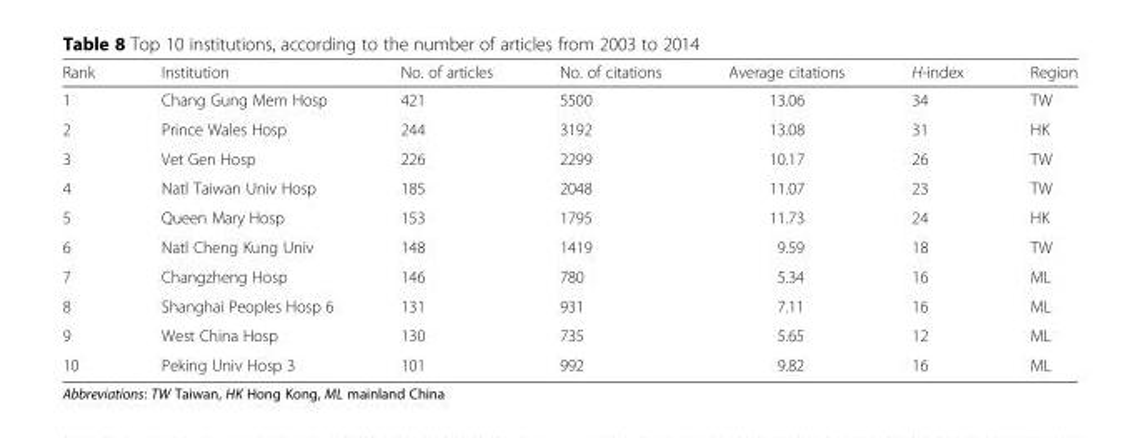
<table><thead><tr><td>Rank</td><td>Institution</td><td>No. of articles</td><td>No. of citations</td><td>Average citations</td><td>H-index</td><td>Region</td></tr></thead><tbody><tr><td>1</td><td>Chang Gung Mem Hosp</td><td>421</td><td>5500</td><td>13.06</td><td>34</td><td>TW</td></tr><tr><td>2</td><td>Prince Wales Hosp</td><td>244</td><td>3192</td><td>13.08</td><td>31</td><td>HK</td></tr><tr><td>3</td><td>Vet Gen Hosp</td><td>226</td><td>2299</td><td>10.17</td><td>26</td><td>TW</td></tr><tr><td>4</td><td>Natl Taiwan Univ Hosp</td><td>185</td><td>2048</td><td>11.07</td><td>23</td><td>TW</td></tr><tr><td>5</td><td>Queen Mary Hosp</td><td>153</td><td>1795</td><td>11.73</td><td>24</td><td>HK</td></tr><tr><td>6</td><td>Natl Cheng Kung Univ</td><td>148</td><td>1419</td><td>9.59</td><td>18</td><td>TW</td></tr><tr><td>7</td><td>Changzheng Hosp</td><td>146</td><td>780</td><td>5.34</td><td>16</td><td>ML</td></tr><tr><td>8</td><td>Shanghai Peoples Hosp 6</td><td>131</td><td>931</td><td>7.11</td><td>16</td><td>ML</td></tr><tr><td>9</td><td>West China Hosp</td><td>130</td><td>735</td><td>5.65</td><td>12</td><td>ML</td></tr><tr><td>10</td><td>Peking Univ Hosp 3</td><td>101</td><td>992</td><td>9.82</td><td>16</td><td>ML</td></tr></tbody></table>